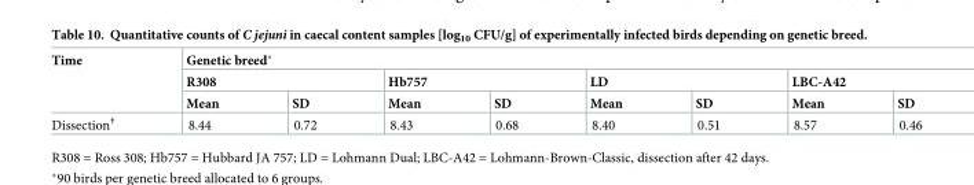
<table><thead><tr><td rowspan="3">Time</td><td colspan="8">Genetic breed*</td></tr><tr><td colspan="2">R308</td><td colspan="2">Hb757</td><td colspan="2">LD</td><td colspan="2">LBC-A42</td></tr><tr><td>Mean</td><td>SD</td><td>Mean</td><td>SD</td><td>Mean</td><td>SD</td><td>Mean</td><td>SD</td></tr></thead><tbody><tr><td>Dissection<sup>†</sup></td><td>8.44</td><td>0.72</td><td>8.43</td><td>0.68</td><td>8.40</td><td>0.51</td><td>8.57</td><td>0.46</td></tr></tbody></table>